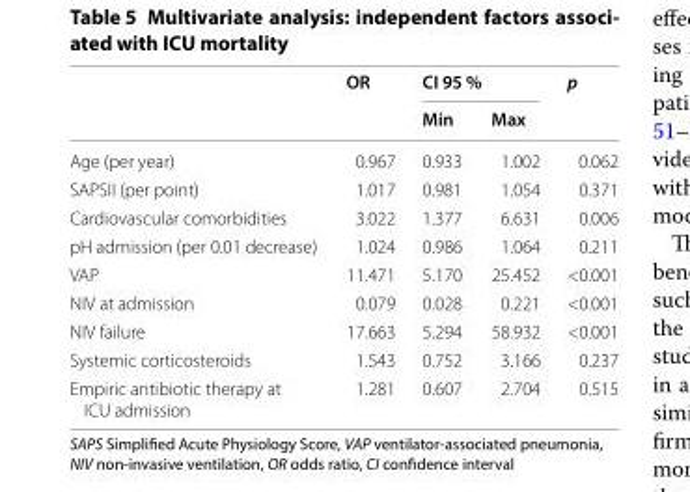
<table><thead><tr><td rowspan="2"></td><td rowspan="2">OR</td><td colspan="2">CI 95 %</td><td rowspan="2">p</td></tr><tr><td>Min</td><td>Max</td></tr></thead><tbody><tr><td>Age (per year)</td><td>0.967</td><td>0.933</td><td>1.002</td><td>0.062</td></tr><tr><td>SAPSII (per point)</td><td>1.017</td><td>0.981</td><td>1.054</td><td>0.371</td></tr><tr><td>Cardiovascular comorbidities</td><td>3.022</td><td>1.377</td><td>6.631</td><td>0.006</td></tr><tr><td>pH admission (per 0.01 decrease)</td><td>1.024</td><td>0.986</td><td>1.064</td><td>0.211</td></tr><tr><td>VAP</td><td>11.471</td><td>5.170</td><td>25.452</td><td>&lt;0.001</td></tr><tr><td>NIV at admission</td><td>0.079</td><td>0.028</td><td>0.221</td><td>&lt;0.001</td></tr><tr><td>NIV failure</td><td>17.663</td><td>5.294</td><td>58.932</td><td>&lt;0.001</td></tr><tr><td>Systemic corticosteroids</td><td>1.543</td><td>0.752</td><td>3.166</td><td>0.237</td></tr><tr><td>Empiric antibiotic therapy at ICU admission</td><td>1.281</td><td>0.607</td><td>2.704</td><td>0.515</td></tr></tbody></table>